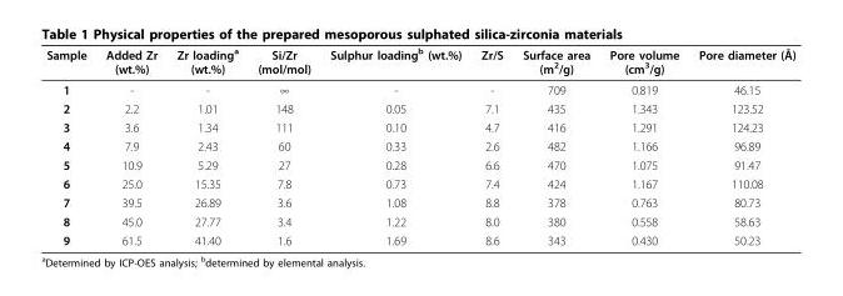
<table><thead><tr><td>Sample</td><td>Added Zr (wt.%)</td><td>Zr loading<sup>a</sup> (wt.%)</td><td>Si/Zr (mol/mol)</td><td>Sulphur loading<sup>b</sup> (wt.%)</td><td>Zr/S</td><td>Surface area (m<sup>2</sup>/g)</td><td>Pore volume (cm<sup>3</sup>/g)</td><td>Pore diameter (Å)</td></tr></thead><tbody><tr><td>1</td><td>-</td><td>-</td><td>∞</td><td>-</td><td>-</td><td>709</td><td>0.819</td><td>46.15</td></tr><tr><td>2</td><td>2.2</td><td>1.01</td><td>148</td><td>0.05</td><td>7.1</td><td>435</td><td>1.343</td><td>123.52</td></tr><tr><td>3</td><td>3.6</td><td>1.34</td><td>111</td><td>0.10</td><td>4.7</td><td>416</td><td>1.291</td><td>124.23</td></tr><tr><td>4</td><td>7.9</td><td>2.43</td><td>60</td><td>0.33</td><td>2.6</td><td>482</td><td>1.166</td><td>96.89</td></tr><tr><td>5</td><td>10.9</td><td>5.29</td><td>27</td><td>0.28</td><td>6.6</td><td>470</td><td>1.075</td><td>91.47</td></tr><tr><td>6</td><td>25.0</td><td>15.35</td><td>7.8</td><td>0.73</td><td>7.4</td><td>424</td><td>1.167</td><td>110.08</td></tr><tr><td>7</td><td>39.5</td><td>26.89</td><td>3.6</td><td>1.08</td><td>8.8</td><td>378</td><td>0.763</td><td>80.73</td></tr><tr><td>8</td><td>45.0</td><td>27.77</td><td>3.4</td><td>1.22</td><td>8.0</td><td>380</td><td>0.558</td><td>58.63</td></tr><tr><td>9</td><td>61.5</td><td>41.40</td><td>1.6</td><td>1.69</td><td>8.6</td><td>343</td><td>0.430</td><td>50.23</td></tr></tbody></table>